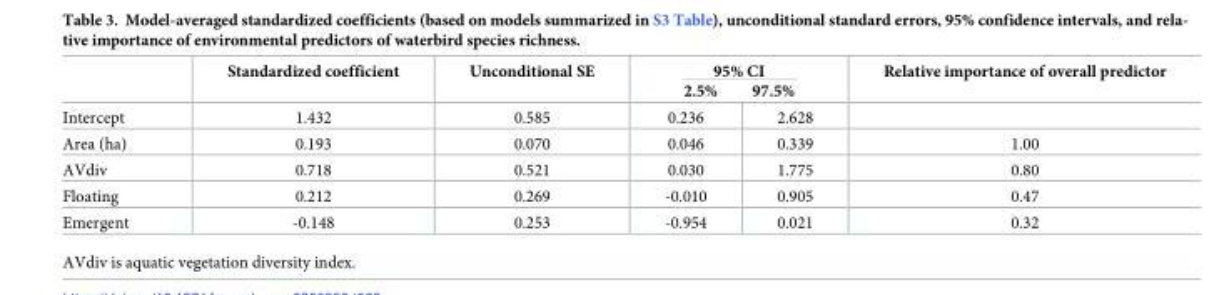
<table><thead><tr><td rowspan="2">Intercept</td><td rowspan="2">Standardized coefficient 1.432</td><td rowspan="2">Unconditional SE 0.585</td><td colspan="2">95% CI 2.5% 97.5%</td><td rowspan="2">Relative importance of overall predictor</td></tr><tr><td>0.236</td><td>2.628</td></tr></thead><tbody><tr><td>Area (ha)</td><td>0.193</td><td>0.070</td><td>0.046</td><td>0.339</td><td>1.00</td></tr><tr><td>AVdiv</td><td>0.718</td><td>0.521</td><td>0.030</td><td>1.775</td><td>0.80</td></tr><tr><td>Floating</td><td>0.212</td><td>0.269</td><td>-0.010</td><td>0.905</td><td>0.47</td></tr><tr><td>Emergent</td><td>-0.148</td><td>0.253</td><td>-0.954</td><td>0.021</td><td>0.32</td></tr></tbody></table>